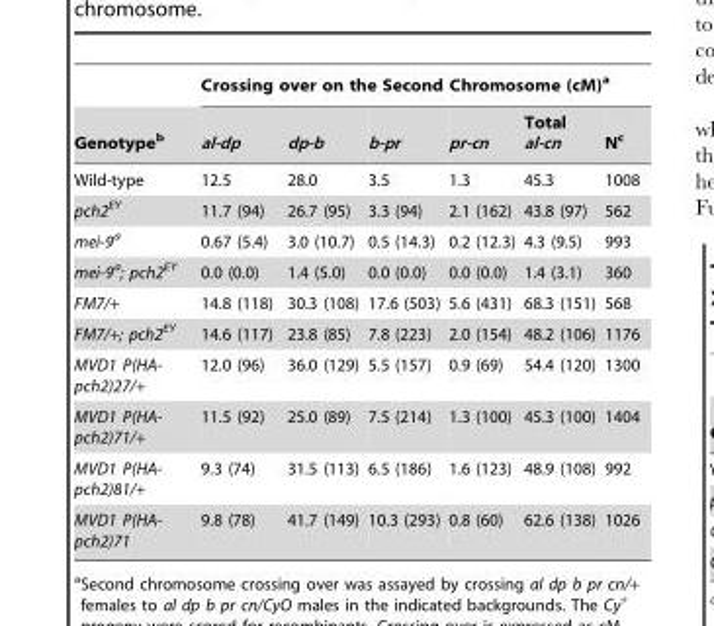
<table><thead><tr><td rowspan="2">Genotype<sup>b</sup></td><td colspan="6">Crossing over on the Second Chromosome (cM)<sup>a</sup></td></tr><tr><td>al-dp</td><td>dp-b</td><td>b-pr</td><td>pr-cn</td><td>Total al-cn</td><td>N<sup>c</sup></td></tr></thead><tbody><tr><td>Wild-type</td><td>12.5</td><td>28.0</td><td>3.5</td><td>1.3</td><td>45.3</td><td>1008</td></tr><tr><td>pch2<sup>EY</sup></td><td>11.7 (94)</td><td>26.7 (95)</td><td>3.3 (94)</td><td>2.1 (162)</td><td>43.8 (97)</td><td>562</td></tr><tr><td>mei-9a</td><td>0.67 (5.4)</td><td>3.0 (10.7)</td><td>0.5 (14.3)</td><td>0.2 (12.3)</td><td>4.3 (9.5)</td><td>993</td></tr><tr><td>mei-9a; pch2<sup>EY</sup></td><td>0.0 (0.0)</td><td>1.4 (5.0)</td><td>0.0 (0.0)</td><td>0.0 (0.0)</td><td>1.4 (3.1)</td><td>360</td></tr><tr><td>FM7/+</td><td>14.8 (118)</td><td>30.3 (108)</td><td>17.6 (503)</td><td>5.6 (431)</td><td>68.3 (151)</td><td>568</td></tr><tr><td>FM7/+; pch2<sup>EY</sup></td><td>14.6 (117)</td><td>23.8 (85)</td><td>7.8 (223)</td><td>2.0 (154)</td><td>48.2 (106)</td><td>1176</td></tr><tr><td>MVD1 P(HA- pch2)27/+</td><td>12.0 (96)</td><td>36.0 (129)</td><td>5.5 (157)</td><td>0.9 (69)</td><td>54.4 (120)</td><td>1300</td></tr><tr><td>MVD1 P(HA- pch2)71/+</td><td>11.5 (92)</td><td>25.0 (89)</td><td>7.5 (214)</td><td>1.3 (100)</td><td>45.3 (100)</td><td>1404</td></tr><tr><td>MVD1 P(HA- pch2)81/+</td><td>9.3 (74)</td><td>31.5 (113)</td><td>6.5 (186)</td><td>1.6 (123)</td><td>48.9 (108)</td><td>992</td></tr><tr><td>MVD1 P(HA- pch2)71</td><td>9.8 (78)</td><td>41.7 (149)</td><td>10.3 (293)</td><td>0.8 (60)</td><td>62.6 (138)</td><td>1026</td></tr></tbody></table>